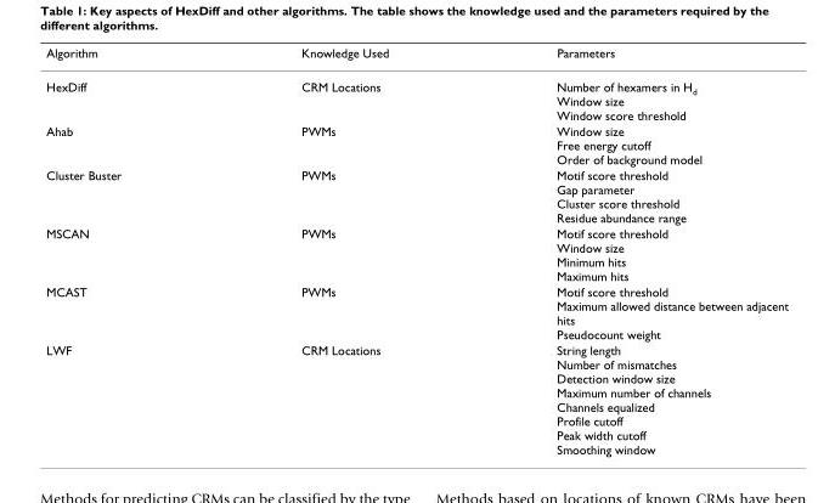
<table><thead><tr><td>Algorithm</td><td>Knowledge Used</td><td>Parameters</td></tr></thead><tbody><tr><td>HexDiff</td><td>CRM Locations</td><td>Number of hexamers in H<sub>d</sub> Window size Window score threshold</td></tr><tr><td>Ahab</td><td>PWMs</td><td>Window size Free energy cutoff Order of background model</td></tr><tr><td>Cluster Buster</td><td>PWMs</td><td>Motif score threshold Gap parameter Cluster score threshold Residue abundance range</td></tr><tr><td>MSCAN</td><td>PWMs</td><td>Motif score threshold Window size Minimum hits Maximum hits</td></tr><tr><td>MCAST</td><td>PWMs</td><td>Motif score threshold Maximum allowed distance between adjacent hits Pseudocount weight</td></tr><tr><td>LWF</td><td>CRM Locations</td><td>String length Number of mismatches Detection window size Maximum number of channels Channels equalized Profile cutoff Peak width cutoff Smoothing window</td></tr></tbody></table>